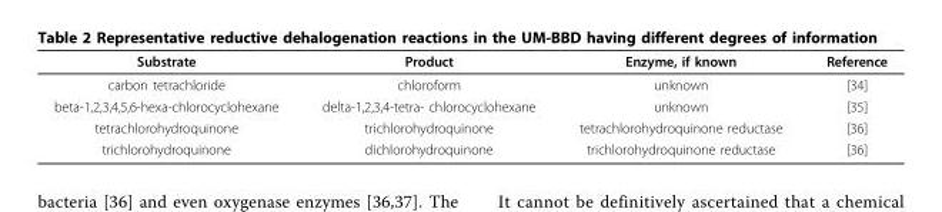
<table><thead><tr><td>Substrate</td><td>Product</td><td>Enzyme, if known</td><td>Reference</td></tr></thead><tbody><tr><td>carbon tetrachloride</td><td>chloroform</td><td>unknown</td><td>[34]</td></tr><tr><td>beta-1,2,3,4,5,6-hexa-chlorocyclohexane</td><td>delta-1,2,3,4-tetra- chlorocyclohexane</td><td>unknown</td><td>[35]</td></tr><tr><td>tetrachlorohydroquinone</td><td>trichlorohydroquinone</td><td>tetrachlorohydroquinone reductase</td><td>[36]</td></tr><tr><td>trichlorohydroquinone</td><td>dichlorohydroquinone</td><td>trichlorohydroquinone reductase</td><td>[36]</td></tr></tbody></table>